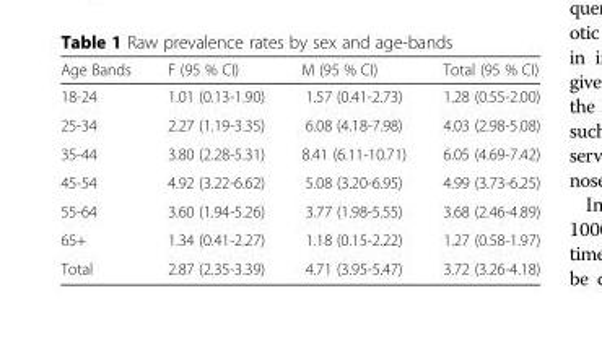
<table><thead><tr><td>Age Bands</td><td>F (95 % CI)</td><td>M (95 % CI)</td><td>Total (95 % CI)</td></tr></thead><tbody><tr><td>18-24</td><td>1.01 (0.13-1.90)</td><td>1.57 (0.41-2.73)</td><td>1.28 (0.55-2.00)</td></tr><tr><td>25-34</td><td>2.27 (1.19-3.35)</td><td>6.08 (4.18-7.98)</td><td>4.03 (2.98-5.08)</td></tr><tr><td>35-44</td><td>3.80 (2.28-5.31)</td><td>8.41 (6.11-10.71)</td><td>6.05 (4.69-7.42)</td></tr><tr><td>45-54</td><td>4.92 (3.22-6.62)</td><td>5.08 (3.20-6.95)</td><td>4.99 (3.73-6.25)</td></tr><tr><td>55-64</td><td>3.60 (1.94-5.26)</td><td>3.77 (1.98-5.55)</td><td>3.68 (2.46-4.89)</td></tr><tr><td>65+</td><td>1.34 (0.41-2.27)</td><td>1.18 (0.15-2.22)</td><td>1.27 (0.58-1.97)</td></tr><tr><td>Total</td><td>2.87 (2.35-3.39)</td><td>4.71 (3.95-5.47)</td><td>3.72 (3.26-4.18)</td></tr></tbody></table>